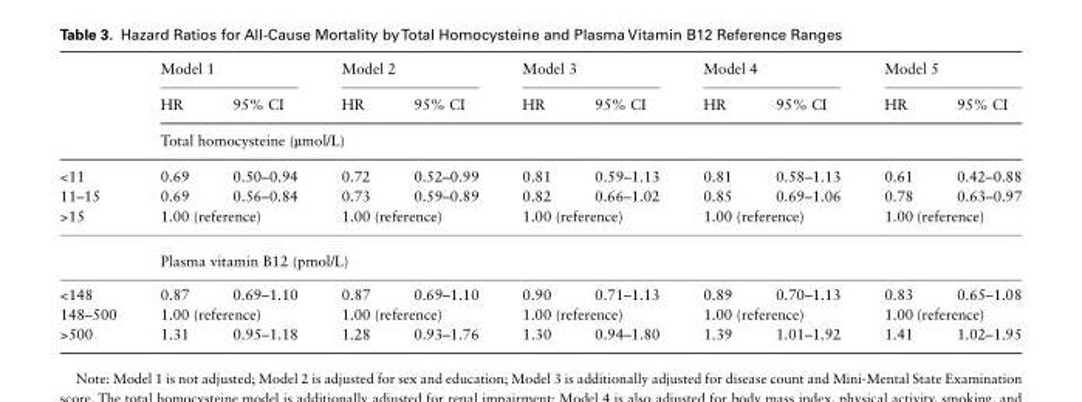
<table><thead><tr><td rowspan="3"></td><td colspan="2">Model 1</td><td colspan="2">Model 2</td><td colspan="2">Model 3</td><td colspan="2">Model 4</td><td colspan="2">Model 5</td></tr><tr><td>HR</td><td>95% CI</td><td>HR</td><td>95% CI</td><td>HR</td><td>95% CI</td><td>HR</td><td>95% CI</td><td>HR</td><td>95% CI</td></tr><tr><td colspan="10">Total homocysteine (µmol/L)</td></tr></thead><tbody><tr><td>&lt;11</td><td>0.69</td><td>0.50–0.94</td><td>0.72</td><td>0.52–0.99</td><td>0.81</td><td>0.59–1.13</td><td>0.81</td><td>0.58–1.13</td><td>0.61</td><td>0.42–0.88</td></tr><tr><td>11–15</td><td>0.69</td><td>0.56–0.84</td><td>0.73</td><td>0.59–0.89</td><td>0.82</td><td>0.66–1.02</td><td>0.85</td><td>0.69–1.06</td><td>0.78</td><td>0.63–0.97</td></tr><tr><td rowspan="2">&gt;15</td><td colspan="2">1.00 (reference)</td><td colspan="2">1.00 (reference)</td><td colspan="2">1.00 (reference)</td><td colspan="2">1.00 (reference)</td><td colspan="2">1.00 (reference)</td></tr><tr><td colspan="10">Plasma vitamin B12 (pmol/L)</td></tr><tr><td>&lt;148</td><td>0.87</td><td>0.69–1.10</td><td>0.87</td><td>0.69–1.10</td><td>0.90</td><td>0.71–1.13</td><td>0.89</td><td>0.70–1.13</td><td>0.83</td><td>0.65–1.08</td></tr><tr><td>148–500</td><td colspan="2">1.00 (reference)</td><td colspan="2">1.00 (reference)</td><td colspan="2">1.00 (reference)</td><td colspan="2">1.00 (reference)</td><td colspan="2">1.00 (reference)</td></tr><tr><td>&gt;500</td><td>1.31</td><td>0.95–1.18</td><td>1.28</td><td>0.93–1.76</td><td>1.30</td><td>0.94–1.80</td><td>1.39</td><td>1.01–1.92</td><td>1.41</td><td>1.02–1.95</td></tr></tbody></table>